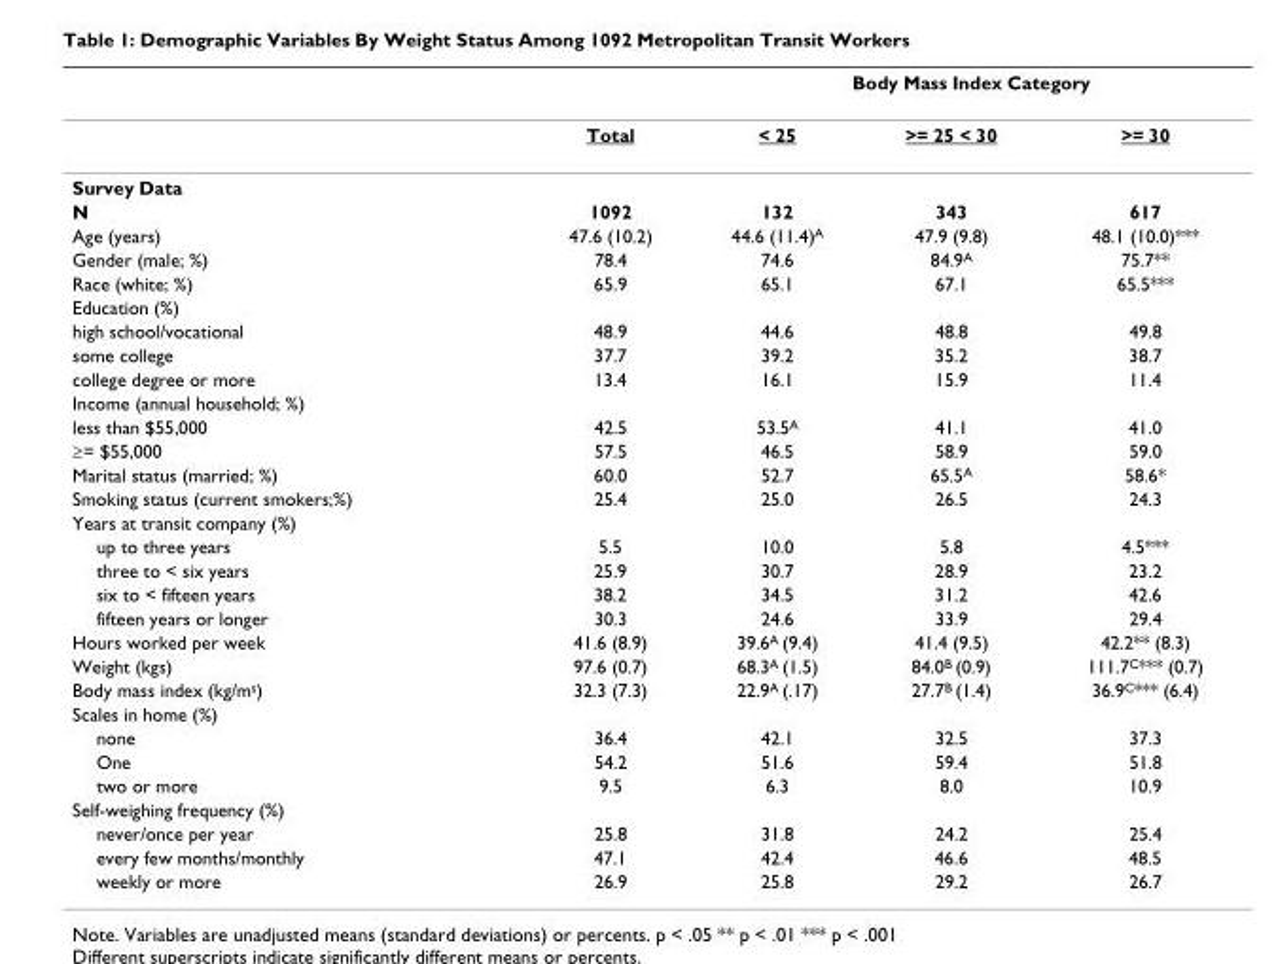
<table><thead><tr><td rowspan="2"></td><td rowspan="2">Total</td><td colspan="3">Body Mass Index Category</td></tr><tr><td>&lt; 25</td><td>&gt;= 25 &lt; 30</td><td>&gt;= 30</td></tr></thead><tbody><tr><td colspan="5">Survey Data</td></tr><tr><td>N</td><td>1092</td><td>132</td><td>343</td><td>617</td></tr><tr><td>Age (years)</td><td>47.6 (10.2)</td><td>44.6 (11.4)<sup>A</sup></td><td>47.9 (9.8)</td><td>48.1 (10.0)***</td></tr><tr><td>Gender (male; %)</td><td>78.4</td><td>74.6</td><td>84.9<sup>A</sup></td><td>75.7**</td></tr><tr><td>Race (white; %)</td><td>65.9</td><td>65.1</td><td>67.1</td><td>65.5***</td></tr><tr><td colspan="5">Education (%)</td></tr><tr><td>high school/vocational</td><td>48.9</td><td>44.6</td><td>48.8</td><td>49.8</td></tr><tr><td>some college</td><td>37.7</td><td>39.2</td><td>35.2</td><td>38.7</td></tr><tr><td>college degree or more</td><td>13.4</td><td>16.1</td><td>15.9</td><td>11.4</td></tr><tr><td colspan="5">Income (annual household; %)</td></tr><tr><td>less than $55,000</td><td>42.5</td><td>53.5<sup>A</sup></td><td>41.1</td><td>41.0</td></tr><tr><td>≥= $55,000</td><td>57.5</td><td>46.5</td><td>58.9</td><td>59.0</td></tr><tr><td>Marital status (married; %)</td><td>60.0</td><td>52.7</td><td>65.5<sup>A</sup></td><td>58.6*</td></tr><tr><td>Smoking status (current smokers;%)</td><td>25.4</td><td>25.0</td><td>26.5</td><td>24.3</td></tr><tr><td colspan="5">Years at transit company (%)</td></tr><tr><td>up to three years</td><td>5.5</td><td>10.0</td><td>5.8</td><td>4.5***</td></tr><tr><td>three to &lt; six years</td><td>25.9</td><td>30.7</td><td>28.9</td><td>23.2</td></tr><tr><td>six to &lt; fifteen years</td><td>38.2</td><td>34.5</td><td>31.2</td><td>42.6</td></tr><tr><td>fifteen years or longer</td><td>30.3</td><td>24.6</td><td>33.9</td><td>29.4</td></tr><tr><td>Hours worked per week</td><td>41.6 (8.9)</td><td>39.6<sup>A</sup> (9.4)</td><td>41.4 (9.5)</td><td>42.2** (8.3)</td></tr><tr><td>Weight (kgs)</td><td>97.6 (0.7)</td><td>68.3<sup>A</sup> (1.5)</td><td>84.0<sup>B</sup> (0.9)</td><td>111.7<sup>C</sup>*** (0.7)</td></tr><tr><td>Body mass index (kg/m<sup>s</sup>)</td><td>32.3 (7.3)</td><td>22.9<sup>A</sup> (.17)</td><td>27.7<sup>B</sup> (1.4)</td><td>36.9<sup>C</sup>*** (6.4)</td></tr><tr><td colspan="5">Scales in home (%)</td></tr><tr><td>none</td><td>36.4</td><td>42.1</td><td>32.5</td><td>37.3</td></tr><tr><td>One</td><td>54.2</td><td>51.6</td><td>59.4</td><td>51.8</td></tr><tr><td>two or more</td><td>9.5</td><td>6.3</td><td>8.0</td><td>10.9</td></tr><tr><td colspan="5">Self-weighing frequency (%)</td></tr><tr><td>never/once per year</td><td>25.8</td><td>31.8</td><td>24.2</td><td>25.4</td></tr><tr><td>every few months/monthly</td><td>47.1</td><td>42.4</td><td>46.6</td><td>48.5</td></tr><tr><td>weekly or more</td><td>26.9</td><td>25.8</td><td>29.2</td><td>26.7</td></tr></tbody></table>